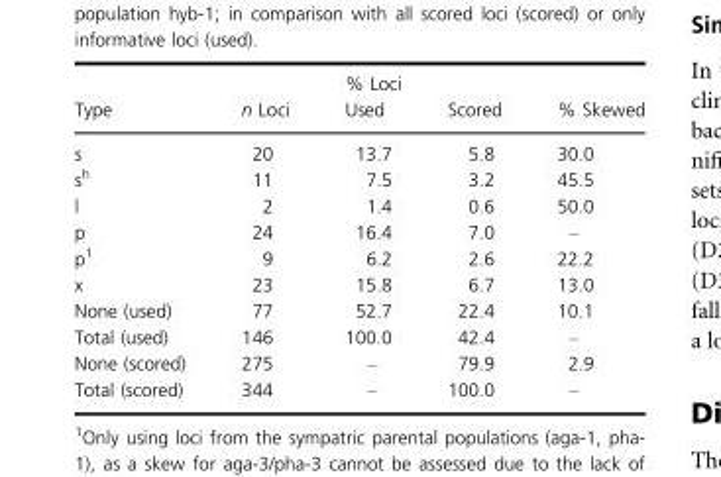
<table><thead><tr><td rowspan="2">Type</td><td rowspan="2">n Loci</td><td colspan="2">% Loci</td><td rowspan="2">% Skewed</td></tr><tr><td>Used</td><td>Scored</td></tr></thead><tbody><tr><td>s</td><td>20</td><td>13.7</td><td>5.8</td><td>30.0</td></tr><tr><td>s<sup>h</sup></td><td>11</td><td>7.5</td><td>3.2</td><td>45.5</td></tr><tr><td>l</td><td>2</td><td>1.4</td><td>0.6</td><td>50.0</td></tr><tr><td>p</td><td>24</td><td>16.4</td><td>7.0</td><td>–</td></tr><tr><td>p<sup>1</sup></td><td>9</td><td>6.2</td><td>2.6</td><td>22.2</td></tr><tr><td>x</td><td>23</td><td>15.8</td><td>6.7</td><td>13.0</td></tr><tr><td>None (used)</td><td>77</td><td>52.7</td><td>22.4</td><td>10.1</td></tr><tr><td>Total (used)</td><td>146</td><td>100.0</td><td>42.4</td><td>–</td></tr><tr><td>None (scored)</td><td>275</td><td>–</td><td>79.9</td><td>2.9</td></tr><tr><td>Total (scored)</td><td>344</td><td>–</td><td>100.0</td><td>–</td></tr></tbody></table>